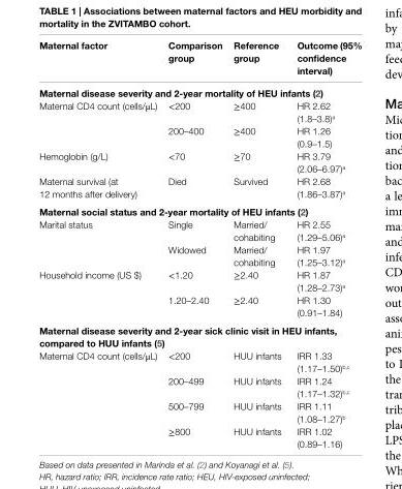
<table><thead><tr><td>Maternal factor</td><td>Comparison group</td><td>reference group</td><td>outcome (95% confidence interval)</td></tr></thead><tbody><tr><td colspan="4">Maternal disease severity and 2-year mortality of HeU infants (2)</td></tr><tr><td rowspan="2">Maternal CD4 count (cells/μL)</td><td>&lt;200</td><td>≥400</td><td>HR 2.62 (1.8–3.8)<sup>a</sup></td></tr><tr><td>200–400</td><td>≥400</td><td>HR 1.26 (0.9–1.5)</td></tr><tr><td>Hemoglobin (g/L)</td><td>&lt;70</td><td>≥70</td><td>HR 3.79 (2.06–6.97)<sup>a</sup></td></tr><tr><td>Maternal survival (at 12 months after delivery)</td><td>Died</td><td>Survived</td><td>HR 2.68 (1.86–3.87)<sup>a</sup></td></tr><tr><td colspan="4">Maternal social status and 2-year mortality of HeU infants (2)</td></tr><tr><td rowspan="2">Marital status</td><td>Single</td><td>Married/ cohabiting</td><td>HR 2.55 (1.29–5.06)<sup>a</sup></td></tr><tr><td>Widowed</td><td>Married/ cohabiting</td><td>HR 1.97 (1.25–3.12)<sup>a</sup></td></tr><tr><td rowspan="2">Household income (US $)</td><td>&lt;1.20</td><td>≥2.40</td><td>HR 1.87 (1.28–2.73)<sup>a</sup></td></tr><tr><td>1.20–2.40</td><td>≥2.40</td><td>HR 1.30 (0.91–1.84)</td></tr><tr><td colspan="4">Maternal disease severity and 2-year sick clinic visit in HeU infants, compared to HUU infants (5)</td></tr><tr><td rowspan="4">Maternal CD4 count (cells/μL)</td><td>&lt;200</td><td>HUU infants</td><td>IRR 1.33 (1.17–1.50)<sup>b,c</sup></td></tr><tr><td>200–499</td><td>HUU infants</td><td>IRR 1.24 (1.17–1.32)<sup>b,c</sup></td></tr><tr><td>500–799</td><td>HUU infants</td><td>IRR 1.11 (1.08–1.27)<sup>b</sup></td></tr><tr><td>≥800</td><td>HUU infants</td><td>IRR 1.02 (0.89–1.16)</td></tr></tbody></table>